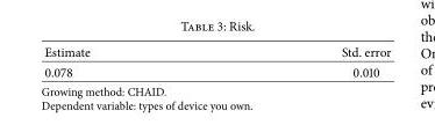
<table><thead><tr><td>Estimate</td><td>Std. error</td></tr></thead><tbody><tr><td>0.078</td><td>0.010</td></tr></tbody></table>